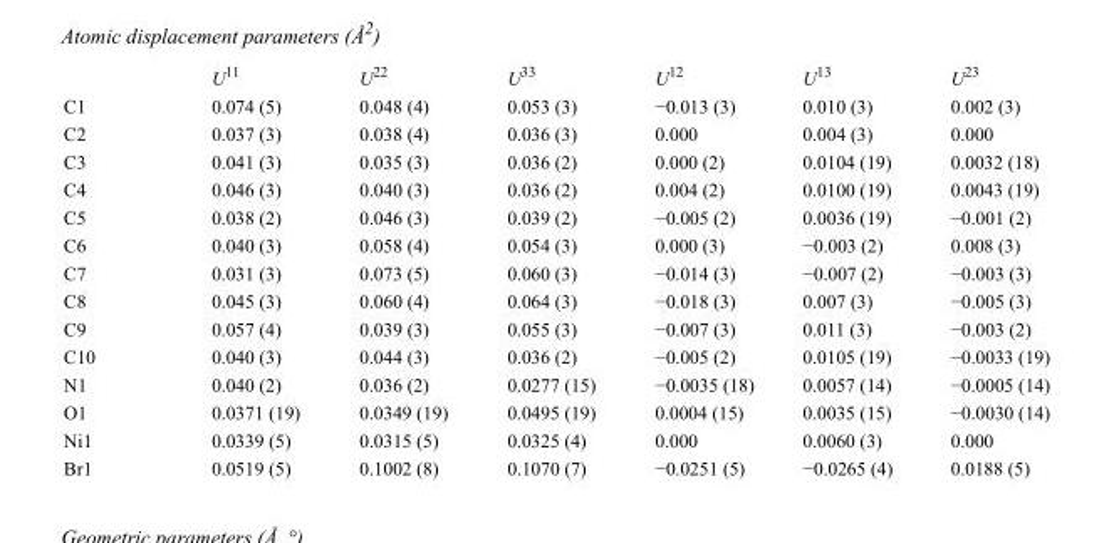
<table><thead><tr><td></td><td>U<sup>11</sup></td><td>U<sup>22</sup></td><td>U<sup>33</sup></td><td>U<sup>12</sup></td><td>U<sup>13</sup></td><td>U<sup>23</sup></td></tr></thead><tbody><tr><td>C1</td><td>0.074 (5)</td><td>0.048 (4)</td><td>0.053 (3)</td><td>−0.013 (3)</td><td>0.010 (3)</td><td>0.002 (3)</td></tr><tr><td>C2</td><td>0.037 (3)</td><td>0.038 (4)</td><td>0.036 (3)</td><td>0.000</td><td>0.004 (3)</td><td>0.000</td></tr><tr><td>C3</td><td>0.041 (3)</td><td>0.035 (3)</td><td>0.036 (2)</td><td>0.000 (2)</td><td>0.0104 (19)</td><td>0.0032 (18)</td></tr><tr><td>C4</td><td>0.046 (3)</td><td>0.040 (3)</td><td>0.036 (2)</td><td>0.004 (2)</td><td>0.0100 (19)</td><td>0.0043 (19)</td></tr><tr><td>C5</td><td>0.038 (2)</td><td>0.046 (3)</td><td>0.039 (2)</td><td>−0.005 (2)</td><td>0.0036 (19)</td><td>−0.001 (2)</td></tr><tr><td>C6</td><td>0.040 (3)</td><td>0.058 (4)</td><td>0.054 (3)</td><td>0.000 (3)</td><td>−0.003 (2)</td><td>0.008 (3)</td></tr><tr><td>C7</td><td>0.031 (3)</td><td>0.073 (5)</td><td>0.060 (3)</td><td>−0.014 (3)</td><td>−0.007 (2)</td><td>−0.003 (3)</td></tr><tr><td>C8</td><td>0.045 (3)</td><td>0.060 (4)</td><td>0.064 (3)</td><td>−0.018 (3)</td><td>0.007 (3)</td><td>−0.005 (3)</td></tr><tr><td>C9</td><td>0.057 (4)</td><td>0.039 (3)</td><td>0.055 (3)</td><td>−0.007 (3)</td><td>0.011 (3)</td><td>−0.003 (2)</td></tr><tr><td>C10</td><td>0.040 (3)</td><td>0.044 (3)</td><td>0.036 (2)</td><td>−0.005 (2)</td><td>0.0105 (19)</td><td>−0.0033 (19)</td></tr><tr><td>N1</td><td>0.040 (2)</td><td>0.036 (2)</td><td>0.0277 (15)</td><td>−0.0035 (18)</td><td>0.0057 (14)</td><td>−0.0005 (14)</td></tr><tr><td>O1</td><td>0.0371 (19)</td><td>0.0349 (19)</td><td>0.0495 (19)</td><td>0.0004 (15)</td><td>0.0035 (15)</td><td>−0.0030 (14)</td></tr><tr><td>Ni1</td><td>0.0339 (5)</td><td>0.0315 (5)</td><td>0.0325 (4)</td><td>0.000</td><td>0.0060 (3)</td><td>0.000</td></tr><tr><td>Br1</td><td>0.0519 (5)</td><td>0.1002 (8)</td><td>0.1070 (7)</td><td>−0.0251 (5)</td><td>−0.0265 (4)</td><td>0.0188 (5)</td></tr></tbody></table>